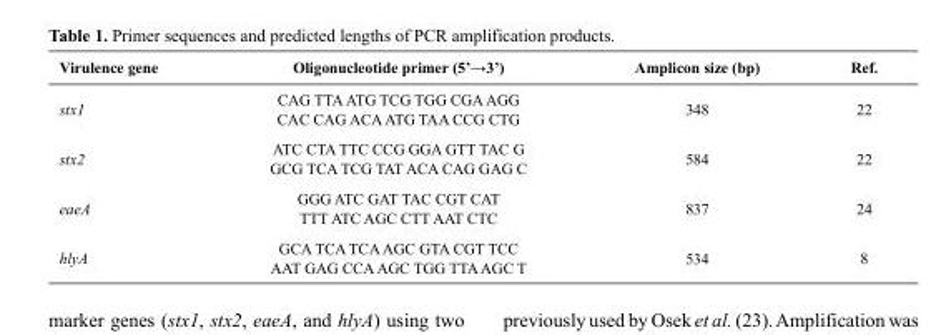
<table><thead><tr><td>Virulence gene</td><td>Oligonucleotide primer (5’→3’)</td><td>Amplicon size (bp)</td><td>Ref.</td></tr></thead><tbody><tr><td>stx1</td><td>CAG TTA ATG TCG TGG CGA AGG CAC CAG ACA ATG TAA CCG CTG</td><td>348</td><td>22</td></tr><tr><td>stx2</td><td>ATC CTA TTC CCG GGA GTT TAC G GCG TCA TCG TAT ACA CAG GAG C</td><td>584</td><td>22</td></tr><tr><td>eaeA</td><td>GGG ATC GAT TAC CGT CAT TTT ATC AGC CTT AAT CTC</td><td>837</td><td>24</td></tr><tr><td>hlyA</td><td>GCA TCA TCA AGC GTA CGT TCC AAT GAG CCA AGC TGG TTA AGC T</td><td>534</td><td>8</td></tr></tbody></table>